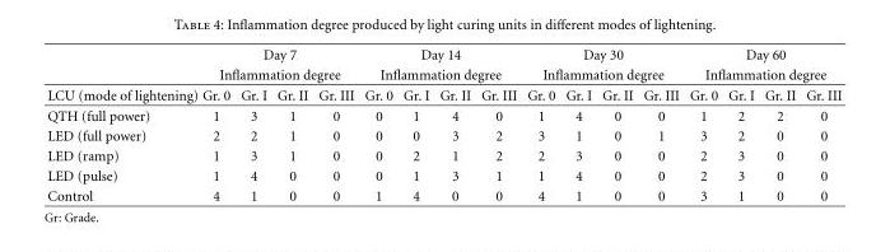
<table><thead><tr><td rowspan="3">LCU (mode of lightening)</td><td rowspan="2" colspan="4">Day 7 Inflammation degree</td><td rowspan="2" colspan="4">Day 14 Inflammation degree</td><td rowspan="2" colspan="4">Day 30 Inflammation degree</td><td rowspan="2" colspan="4">Day 60 Inflammation degree</td></tr><tr></tr><tr><td>Gr. 0</td><td>Gr. I</td><td>Gr. II</td><td>Gr. III</td><td>Gr. 0</td><td>Gr. I</td><td>Gr. II</td><td>Gr. III</td><td>Gr. 0</td><td>Gr. I</td><td>Gr. II</td><td>Gr. III</td><td>Gr. 0</td><td>Gr. I</td><td>Gr. II</td><td>Gr. III</td></tr></thead><tbody><tr><td>QTH (full power)</td><td>1</td><td>3</td><td>1</td><td>0</td><td>0</td><td>1</td><td>4</td><td>0</td><td>1</td><td>4</td><td>0</td><td>0</td><td>1</td><td>2</td><td>2</td><td>0</td></tr><tr><td>LED (full power)</td><td>2</td><td>2</td><td>1</td><td>0</td><td>0</td><td>0</td><td>3</td><td>2</td><td>3</td><td>1</td><td>0</td><td>1</td><td>3</td><td>2</td><td>0</td><td>0</td></tr><tr><td>LED (ramp)</td><td>1</td><td>3</td><td>1</td><td>0</td><td>0</td><td>2</td><td>1</td><td>2</td><td>2</td><td>3</td><td>0</td><td>0</td><td>2</td><td>3</td><td>0</td><td>0</td></tr><tr><td>LED (pulse)</td><td>1</td><td>4</td><td>0</td><td>0</td><td>0</td><td>1</td><td>3</td><td>1</td><td>1</td><td>4</td><td>0</td><td>0</td><td>2</td><td>3</td><td>0</td><td>0</td></tr><tr><td>Control</td><td>4</td><td>1</td><td>0</td><td>0</td><td>1</td><td>4</td><td>0</td><td>0</td><td>4</td><td>1</td><td>0</td><td>0</td><td>3</td><td>1</td><td>0</td><td>0</td></tr></tbody></table>